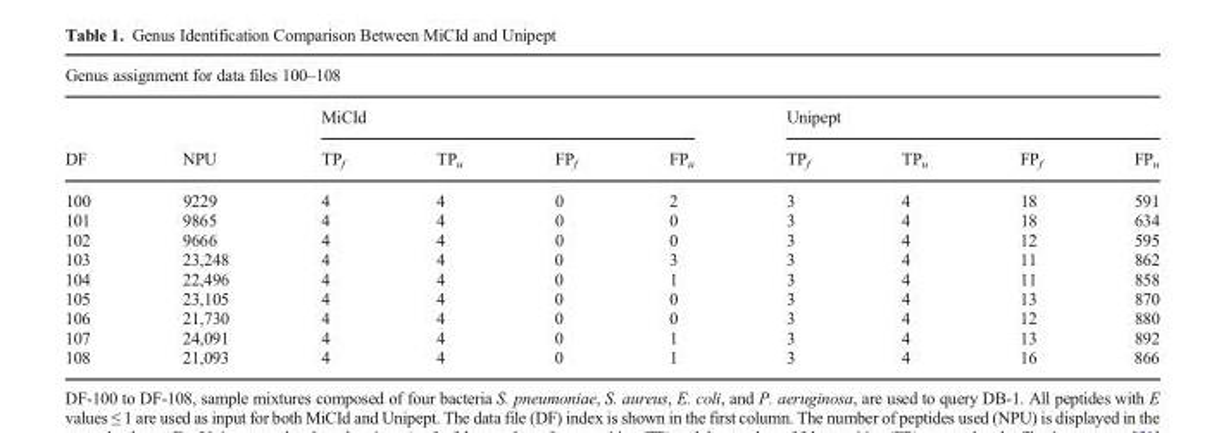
<table><thead><tr><td colspan="10">Genus assignment for data files 100–108</td></tr><tr><td rowspan="2">DF</td><td rowspan="2">NPU</td><td colspan="4">MiCId</td><td colspan="4">Unipept</td></tr><tr><td>TP<sub>f</sub></td><td>TP<sub>u</sub></td><td>FP<sub>f</sub></td><td>FP<sub>u</sub></td><td>TP<sub>f</sub></td><td>TP<sub>u</sub></td><td>FP<sub>f</sub></td><td>FP<sub>u</sub></td></tr></thead><tbody><tr><td>100</td><td>9229</td><td>4</td><td>4</td><td>0</td><td>2</td><td>3</td><td>4</td><td>18</td><td>591</td></tr><tr><td>101</td><td>9865</td><td>4</td><td>4</td><td>0</td><td>0</td><td>3</td><td>4</td><td>18</td><td>634</td></tr><tr><td>102</td><td>9666</td><td>4</td><td>4</td><td>0</td><td>0</td><td>3</td><td>4</td><td>12</td><td>595</td></tr><tr><td>103</td><td>23,248</td><td>4</td><td>4</td><td>0</td><td>3</td><td>3</td><td>4</td><td>11</td><td>862</td></tr><tr><td>104</td><td>22,496</td><td>4</td><td>4</td><td>0</td><td>1</td><td>3</td><td>4</td><td>11</td><td>858</td></tr><tr><td>105</td><td>23,105</td><td>4</td><td>4</td><td>0</td><td>0</td><td>3</td><td>4</td><td>13</td><td>870</td></tr><tr><td>106</td><td>21,730</td><td>4</td><td>4</td><td>0</td><td>0</td><td>3</td><td>4</td><td>12</td><td>880</td></tr><tr><td>107</td><td>24,091</td><td>4</td><td>4</td><td>0</td><td>1</td><td>3</td><td>4</td><td>13</td><td>892</td></tr><tr><td>108</td><td>21,093</td><td>4</td><td>4</td><td>0</td><td>1</td><td>3</td><td>4</td><td>16</td><td>866</td></tr></tbody></table>